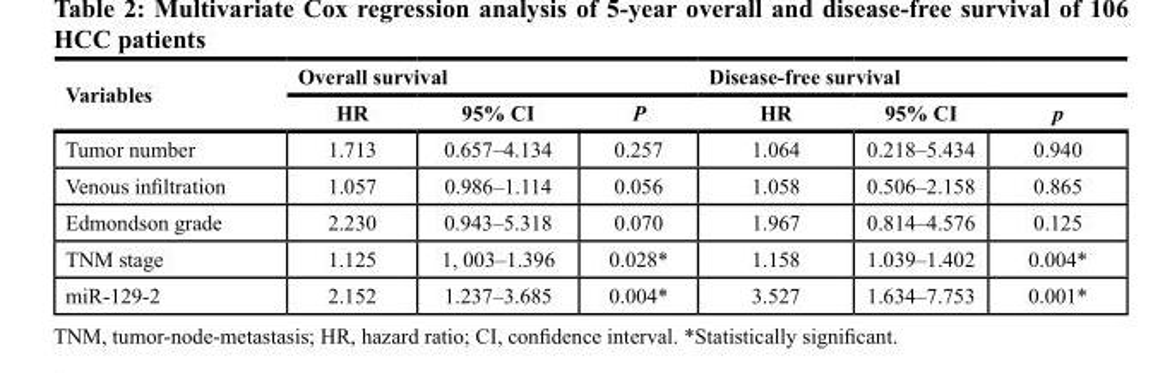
<table><thead><tr><td rowspan="2">Variables</td><td colspan="3">Overall survival</td><td colspan="3">Disease-free survival</td></tr><tr><td>HR</td><td>95% CI</td><td>P</td><td>HR</td><td>95% CI</td><td>p</td></tr></thead><tbody><tr><td>Tumor number</td><td>1.713</td><td>0.657–4.134</td><td>0.257</td><td>1.064</td><td>0.218–5.434</td><td>0.940</td></tr><tr><td>Venous infiltration</td><td>1.057</td><td>0.986–1.114</td><td>0.056</td><td>1.058</td><td>0.506–2.158</td><td>0.865</td></tr><tr><td>Edmondson grade</td><td>2.230</td><td>0.943–5.318</td><td>0.070</td><td>1.967</td><td>0.814–4.576</td><td>0.125</td></tr><tr><td>TNM stage</td><td>1.125</td><td>1, 003–1.396</td><td>0.028*</td><td>1.158</td><td>1.039–1.402</td><td>0.004*</td></tr><tr><td>miR-129-2</td><td>2.152</td><td>1.237–3.685</td><td>0.004*</td><td>3.527</td><td>1.634–7.753</td><td>0.001*</td></tr></tbody></table>